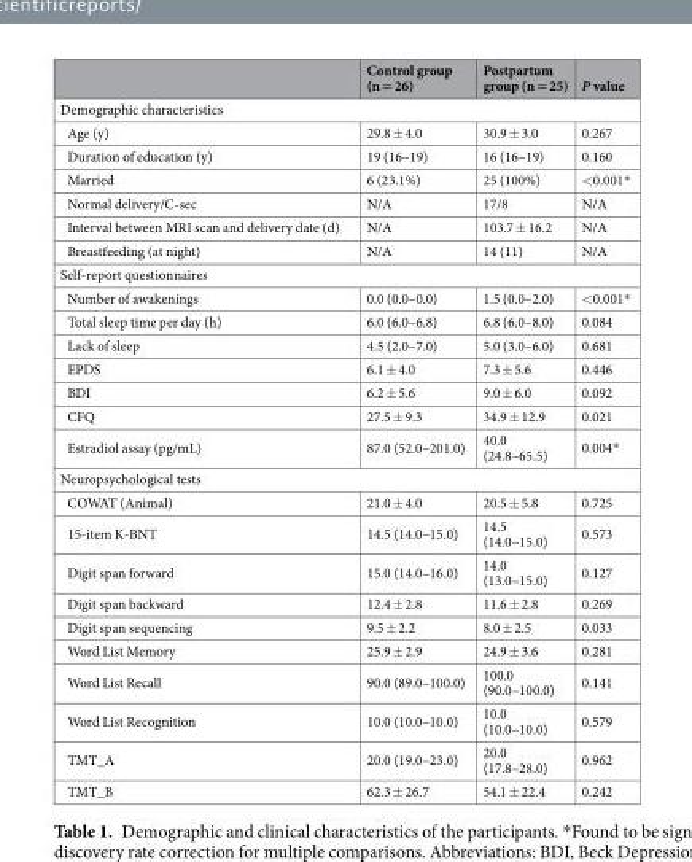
<table><thead><tr><td></td><td>Control group (n = 26)</td><td>Postpartum group (n = 25)</td><td>P value</td></tr></thead><tbody><tr><td colspan="4">Demographic characteristics</td></tr><tr><td>Age (y)</td><td>29.8 ± 4.0</td><td>30.9 ± 3.0</td><td>0.267</td></tr><tr><td>Duration of education (y)</td><td>19 (16–19)</td><td>16 (16–19)</td><td>0.160</td></tr><tr><td>Married</td><td>6 (23.1%)</td><td>25 (100%)</td><td>&lt;0.001*</td></tr><tr><td>Normal delivery/C-sec</td><td>N/A</td><td>17/8</td><td>N/A</td></tr><tr><td>Interval between MRI scan and delivery date (d)</td><td>N/A</td><td>103.7 ± 16.2</td><td>N/A</td></tr><tr><td>Breastfeeding (at night)</td><td>N/A</td><td>14 (11)</td><td>N/A</td></tr><tr><td colspan="4">Self-report questionnaires</td></tr><tr><td>Number of awakenings</td><td>0.0 (0.0–0.0)</td><td>1.5 (0.0–2.0)</td><td>&lt;0.001*</td></tr><tr><td>Total sleep time per day (h)</td><td>6.0 (6.0–6.8)</td><td>6.8 (6.0–8.0)</td><td>0.084</td></tr><tr><td>Lack of sleep</td><td>4.5 (2.0–7.0)</td><td>5.0 (3.0–6.0)</td><td>0.681</td></tr><tr><td>EPDS</td><td>6.1 ± 4.0</td><td>7.3 ± 5.6</td><td>0.446</td></tr><tr><td>BDI</td><td>6.2 ± 5.6</td><td>9.0 ± 6.0</td><td>0.092</td></tr><tr><td>CFQ</td><td>27.5 ± 9.3</td><td>34.9 ± 12.9</td><td>0.021</td></tr><tr><td>Estradiol assay (pg/mL)</td><td>87.0 (52.0–201.0)</td><td>40.0 (24.8–65.5)</td><td>0.004*</td></tr><tr><td colspan="4">Neuropsychological tests</td></tr><tr><td>COWAT (Animal)</td><td>21.0 ± 4.0</td><td>20.5 ± 5.8</td><td>0.725</td></tr><tr><td>15-item K-BNT</td><td>14.5 (14.0–15.0)</td><td>14.5 (14.0–15.0)</td><td>0.573</td></tr><tr><td>Digit span forward</td><td>15.0 (14.0–16.0)</td><td>14.0 (13.0–15.0)</td><td>0.127</td></tr><tr><td>Digit span backward</td><td>12.4 ± 2.8</td><td>11.6 ± 2.8</td><td>0.269</td></tr><tr><td>Digit span sequencing</td><td>9.5 ± 2.2</td><td>8.0 ± 2.5</td><td>0.033</td></tr><tr><td>Word List Memory</td><td>25.9 ± 2.9</td><td>24.9 ± 3.6</td><td>0.281</td></tr><tr><td>Word List Recall</td><td>90.0 (89.0–100.0)</td><td>100.0 (90.0–100.0)</td><td>0.141</td></tr><tr><td>Word List Recognition</td><td>10.0 (10.0–10.0)</td><td>10.0 (10.0–10.0)</td><td>0.579</td></tr><tr><td>TMT_A</td><td>20.0 (19.0–23.0)</td><td>20.0 (17.8–28.0)</td><td>0.962</td></tr><tr><td>TMT_B</td><td>62.3 ± 26.7</td><td>54.1 ± 22.4</td><td>0.242</td></tr></tbody></table>